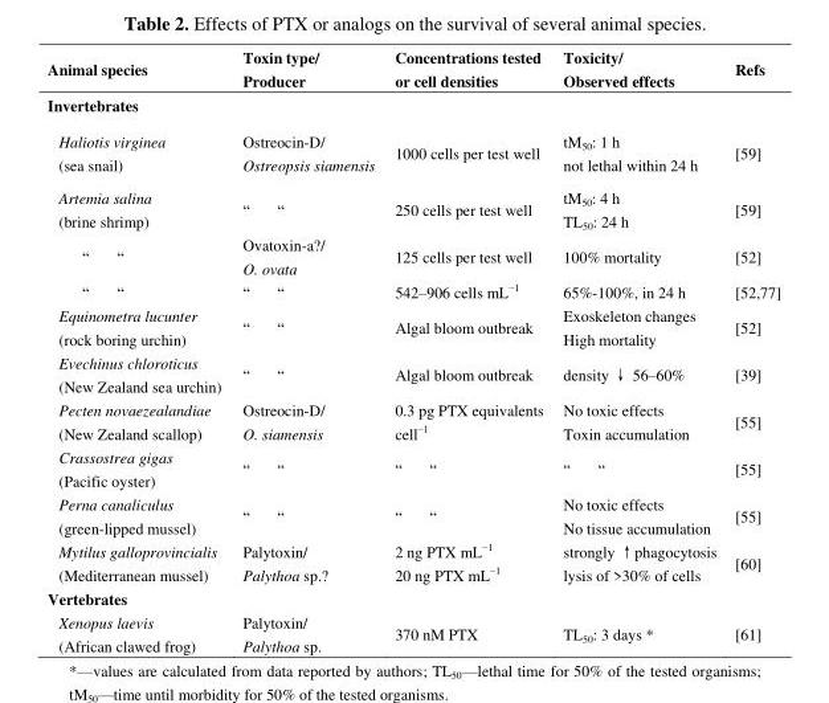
<table><thead><tr><td>Animal species</td><td>Toxin type/ Producer</td><td>Concentrations tested or cell densities</td><td>Toxicity/ Observed effects</td><td>Refs</td></tr></thead><tbody><tr><td colspan="5">Invertebrates</td></tr><tr><td>Haliotis virginea (sea snail)</td><td>Ostreocin-D/ Ostreopsis siamensis</td><td>1000 cells per test well</td><td>tM<sub>50</sub>: 1 h not lethal within 24 h</td><td>[59]</td></tr><tr><td>Artemia salina (brine shrimp)</td><td>― ―</td><td>250 cells per test well</td><td>tM<sub>50</sub>: 4 h TL<sub>50</sub>: 24 h</td><td>[59]</td></tr><tr><td>― ―</td><td>Ovatoxin-a?/ O. ovata</td><td>125 cells per test well</td><td>100% mortality</td><td>[52]</td></tr><tr><td>― ―</td><td>― ―</td><td>542–906 cells mL<sup>−1</sup></td><td>65%-100%, in 24 h</td><td>[52,77]</td></tr><tr><td>Equinometra lucunter (rock boring urchin)</td><td>― ―</td><td>Algal bloom outbreak</td><td>Exoskeleton changes High mortality</td><td>[52]</td></tr><tr><td>Evechinus chloroticus (New Zealand sea urchin)</td><td>― ―</td><td>Algal bloom outbreak</td><td>density ↓ 56–60%</td><td>[39]</td></tr><tr><td>Pecten novaezealandiae (New Zealand scallop)</td><td>Ostreocin-D/ O. siamensis</td><td>0.3 pg PTX equivalents cell<sup>−1</sup></td><td>No toxic effects Toxin accumulation</td><td>[55]</td></tr><tr><td>Crassostrea gigas (Pacific oyster)</td><td>― ―</td><td>― ―</td><td>― ―</td><td>[55]</td></tr><tr><td>Perna canaliculus (green-lipped mussel)</td><td>― ―</td><td>― ―</td><td>No toxic effects No tissue accumulation</td><td>[55]</td></tr><tr><td>Mytilus galloprovincialis (Mediterranean mussel)</td><td>Palytoxin/ Palythoa sp.?</td><td>2 ng PTX mL<sup>−1</sup> 20 ng PTX mL<sup>−1</sup></td><td>strongly ↑phagocytosis lysis of &gt;30% of cells</td><td>[60]</td></tr><tr><td colspan="5">Vertebrates</td></tr><tr><td>Xenopus laevis (African clawed frog)</td><td>Palytoxin/ Palythoa sp.</td><td>370 nM PTX</td><td>TL<sub>50</sub>: 3 days *</td><td>[61]</td></tr></tbody></table>